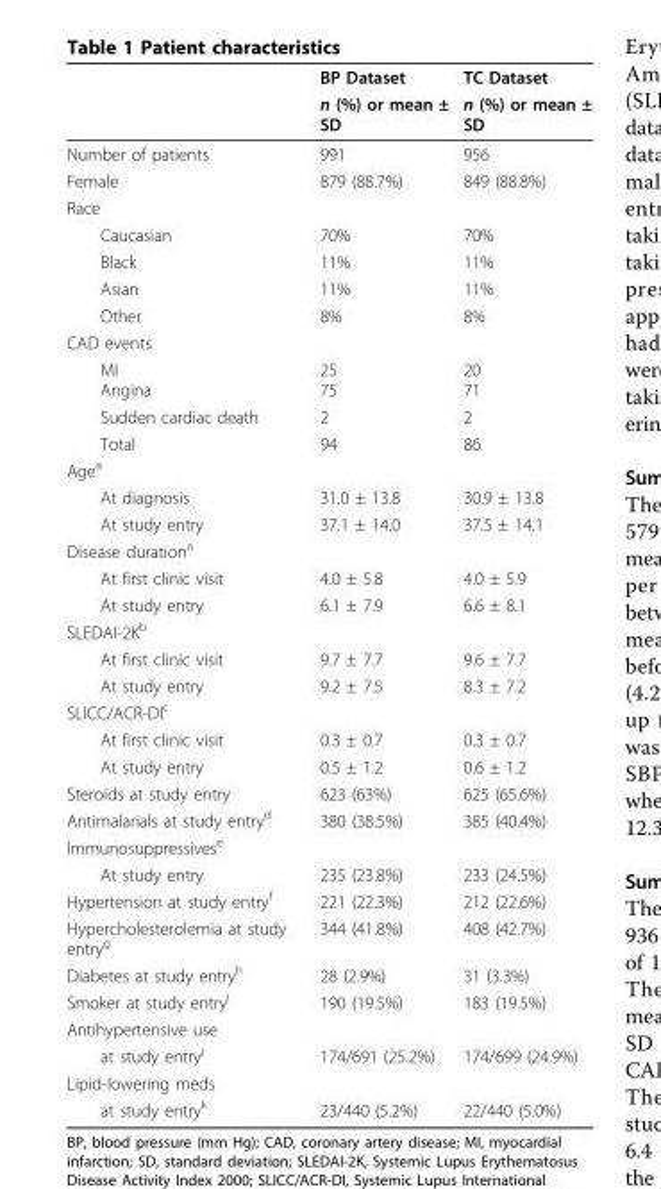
<table><thead><tr><td rowspan="2"></td><td rowspan="2">BP Dataset n (%) or mean ± SD</td><td rowspan="2">TC Dataset n (%) or mean ± SD</td></tr><tr></tr></thead><tbody><tr><td>Number of patients</td><td>991</td><td>956</td></tr><tr><td>Female</td><td>879 (88.7%)</td><td>849 (88.8%)</td></tr><tr><td colspan="3">Race</td></tr><tr><td>Caucasian</td><td>70%</td><td>70%</td></tr><tr><td>Black</td><td>11%</td><td>11%</td></tr><tr><td>Asian</td><td>11%</td><td>11%</td></tr><tr><td>Other</td><td>8%</td><td>8%</td></tr><tr><td colspan="3">CAD events</td></tr><tr><td>MI Angina</td><td>25 75</td><td>20 71</td></tr><tr><td>Sudden cardiac death</td><td>2</td><td>2</td></tr><tr><td>Total</td><td>94</td><td>86</td></tr><tr><td colspan="3">Age<sup>a</sup></td></tr><tr><td>At diagnosis</td><td>31.0 ± 13.8</td><td>30.9 ± 13.8</td></tr><tr><td>At study entry</td><td>37.1 ± 14.0</td><td>37.5 ± 14.1</td></tr><tr><td colspan="3">Disease duration<sup>a</sup></td></tr><tr><td>At first clinic visit</td><td>4.0 ± 5.8</td><td>4.0 ± 5.9</td></tr><tr><td>At study entry</td><td>6.1 ± 7.9</td><td>6.6 ± 8.1</td></tr><tr><td colspan="3">SLEDAI-2K<sup>b</sup></td></tr><tr><td>At first clinic visit</td><td>9.7 ± 7.7</td><td>9.6 ± 7.7</td></tr><tr><td>At study entry</td><td>9.2 ± 7.5</td><td>8.3 ± 7.2</td></tr><tr><td colspan="3">SLICC/ACR-DI<sup>c</sup></td></tr><tr><td>At first clinic visit</td><td>0.3 ± 0.7</td><td>0.3 ± 0.7</td></tr><tr><td>At study entry</td><td>0.5 ± 1.2</td><td>0.6 ± 1.2</td></tr><tr><td>Steroids at study entry</td><td>623 (63%)</td><td>625 (65.6%)</td></tr><tr><td>Antimalarials at study entry<sup>d</sup></td><td>380 (38.5%)</td><td>385 (40.4%)</td></tr><tr><td colspan="3">Immunosuppressives<sup>e</sup></td></tr><tr><td>At study entry</td><td>235 (23.8%)</td><td>233 (24.5%)</td></tr><tr><td>Hypertension at study entry<sup>f</sup></td><td>221 (22.3%)</td><td>212 (22.6%)</td></tr><tr><td>Hypercholesterolemia at study entry<sup>g</sup></td><td>344 (41.8%)</td><td>408 (42.7%)</td></tr><tr><td>Diabetes at study entry<sup>h</sup></td><td>28 (2.9%)</td><td>31 (3.3%)</td></tr><tr><td>Smoker at study entry<sup>i</sup></td><td>190 (19.5%)</td><td>183 (19.5%)</td></tr><tr><td colspan="3">Antihypertensive use</td></tr><tr><td>at study entry<sup>j</sup></td><td>174/691 (25.2%)</td><td>174/699 (24.9%)</td></tr><tr><td colspan="3">Lipid-lowering meds</td></tr><tr><td>at study entry<sup>k</sup></td><td>23/440 (5.2%)</td><td>22/440 (5.0%)</td></tr></tbody></table>